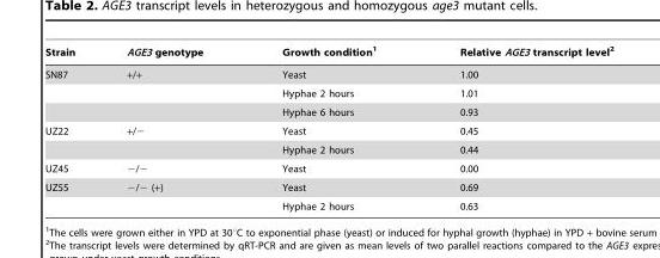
<table><thead><tr><td>Strain</td><td>AGE3 genotype</td><td>Growth condition<sup>1</sup></td><td>Relative AGE3 transcript level<sup>2</sup></td></tr></thead><tbody><tr><td rowspan="3">SN87</td><td>+/+</td><td>Yeast</td><td>1.00</td></tr><tr><td></td><td>Hyphae 2 hours</td><td>1.01</td></tr><tr><td></td><td>Hyphae 6 hours</td><td>0.93</td></tr><tr><td rowspan="2">UZ22</td><td>+/−</td><td>Yeast</td><td>0.45</td></tr><tr><td></td><td>Hyphae 2 hours</td><td>0.44</td></tr><tr><td>UZ45</td><td>−/−</td><td>Yeast</td><td>0.00</td></tr><tr><td rowspan="2">UZ55</td><td>−/− (+)</td><td>Yeast</td><td>0.69</td></tr><tr><td></td><td>Hyphae 2 hours</td><td>0.63</td></tr></tbody></table>